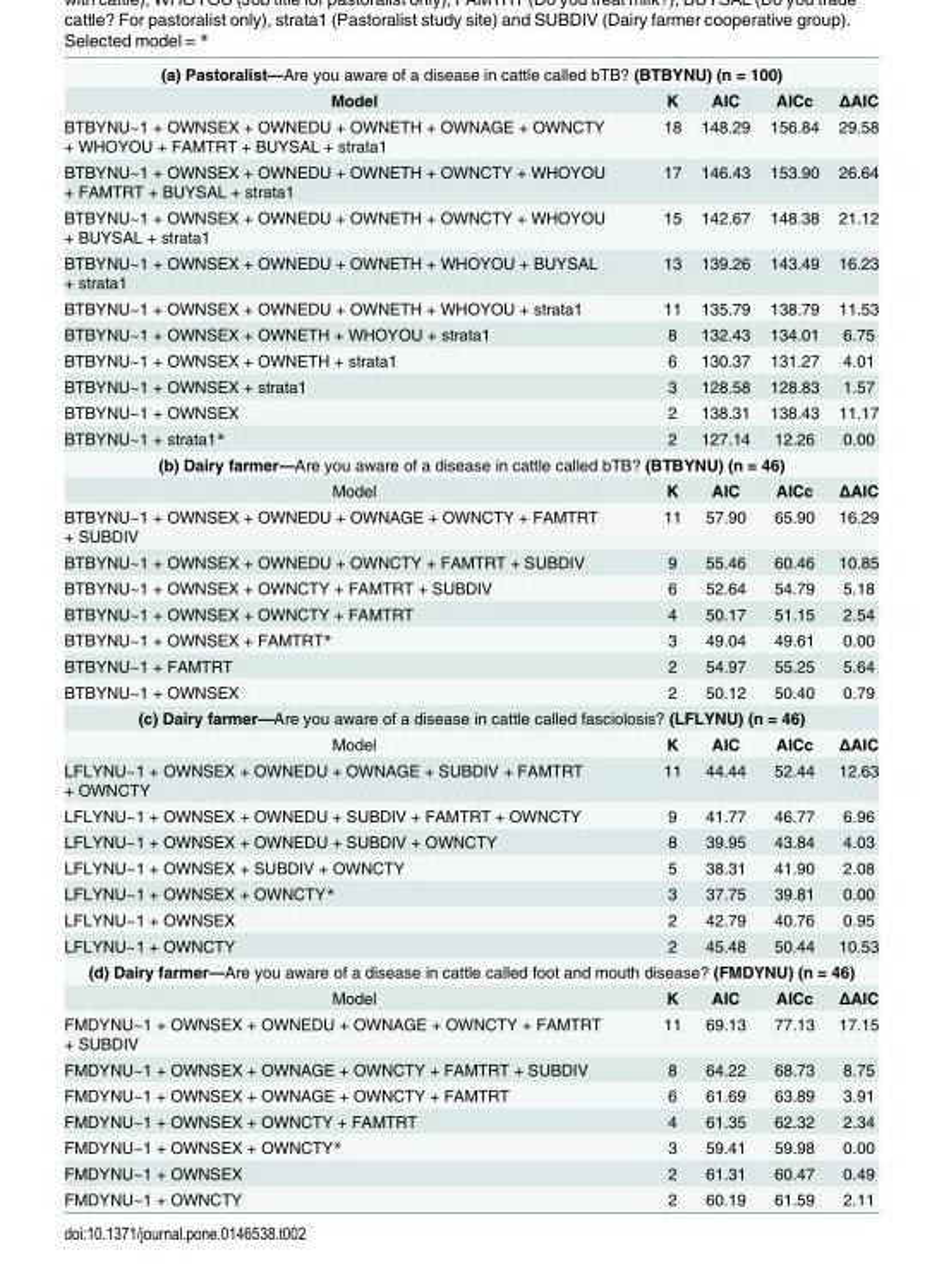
<table><tbody><tr><td colspan="5">(a) Pastoralist—Are you aware of a disease in cattle called bTB? (BTBYNU) (n = 100)</td></tr><tr><td>Model</td><td>K</td><td>AIC</td><td>AICc</td><td>ΔAIC</td></tr><tr><td>BTBYNU~1 + OWNSEX + OWNEDU + OWNETH + OWNAGE + OWNCTY + WHOYOU + FAMTRT + BUYSAL + strata1</td><td>18</td><td>148.29</td><td>156.84</td><td>29.58</td></tr><tr><td>BTBYNU~1 + OWNSEX + OWNEDU + OWNETH + OWNCTY + WHOYOU + FAMTRT + BUYSAL + strata1</td><td>17</td><td>146.43</td><td>153.90</td><td>26.64</td></tr><tr><td>BTBYNU~1 + OWNSEX + OWNEDU + OWNETH + OWNCTY + WHOYOU + BUYSAL + strata1</td><td>15</td><td>142.67</td><td>148.38</td><td>21.12</td></tr><tr><td>BTBYNU~1 + OWNSEX + OWNEDU + OWNETH + WHOYOU + BUYSAL + strata1</td><td>13</td><td>139.26</td><td>143.49</td><td>16.23</td></tr><tr><td>BTBYNU~1 + OWNSEX + OWNEDU + OWNETH + WHOYOU + strata1</td><td>11</td><td>135.79</td><td>138.79</td><td>11.53</td></tr><tr><td>BTBYNU~1 + OWNSEX + OWNETH + WHOYOU + strata1</td><td>8</td><td>132.43</td><td>134.01</td><td>6.75</td></tr><tr><td>BTBYNU~1 + OWNSEX + OWNETH + strata1</td><td>6</td><td>130.37</td><td>131.27</td><td>4.01</td></tr><tr><td>BTBYNU~1 + OWNSEX + strata1</td><td>3</td><td>128.58</td><td>128.83</td><td>1.57</td></tr><tr><td>BTBYNU~1 + OWNSEX</td><td>2</td><td>138.31</td><td>138.43</td><td>11.17</td></tr><tr><td>BTBYNU~1 + strata1*</td><td>2</td><td>127.14</td><td>12.26</td><td>0.00</td></tr><tr><td colspan="5">(b) Dairy farmer—Are you aware of a disease in cattle called bTB? (BTBYNU) (n = 46)</td></tr><tr><td>Model</td><td>K</td><td>AIC</td><td>AICc</td><td>ΔAIC</td></tr><tr><td>BTBYNU~1 + OWNSEX + OWNEDU + OWNAGE + OWNCTY + FAMTRT + SUBDIV</td><td>11</td><td>57.90</td><td>65.90</td><td>16.29</td></tr><tr><td>BTBYNU~1 + OWNSEX + OWNEDU + OWNCTY + FAMTRT + SUBDIV</td><td>9</td><td>55.46</td><td>60.46</td><td>10.85</td></tr><tr><td>BTBYNU~1 + OWNSEX + OWNCTY + FAMTRT + SUBDIV</td><td>6</td><td>52.64</td><td>54.79</td><td>5.18</td></tr><tr><td>BTBYNU~1 + OWNSEX + OWNCTY + FAMTRT</td><td>4</td><td>50.17</td><td>51.15</td><td>2.54</td></tr><tr><td>BTBYNU~1 + OWNSEX + FAMTRT*</td><td>3</td><td>49.04</td><td>49.61</td><td>0.00</td></tr><tr><td>BTBYNU~1 + FAMTRT</td><td>2</td><td>54.97</td><td>55.25</td><td>5.64</td></tr><tr><td>BTBYNU~1 + OWNSEX</td><td>2</td><td>50.12</td><td>50.40</td><td>0.79</td></tr><tr><td colspan="5">(c) Dairy farmer—Are you aware of a disease in cattle called fasciolosis? (LFLYNU) (n = 46)</td></tr><tr><td>Model</td><td>K</td><td>AIC</td><td>AICc</td><td>ΔAIC</td></tr><tr><td>LFLYNU~1 + OWNSEX + OWNEDU + OWNAGE + SUBDIV + FAMTRT + OWNCTY</td><td>11</td><td>44.44</td><td>52.44</td><td>12.63</td></tr><tr><td>LFLYNU~1 + OWNSEX + OWNEDU + SUBDIV + FAMTRT + OWNCTY</td><td>9</td><td>41.77</td><td>46.77</td><td>6.96</td></tr><tr><td>LFLYNU~1 + OWNSEX + OWNEDU + SUBDIV + OWNCTY</td><td>8</td><td>39.95</td><td>43.84</td><td>4.03</td></tr><tr><td>LFLYNU~1 + OWNSEX + SUBDIV + OWNCTY</td><td>5</td><td>38.31</td><td>41.90</td><td>2.08</td></tr><tr><td>LFLYNU~1 + OWNSEX + OWNCTY*</td><td>3</td><td>37.75</td><td>39.81</td><td>0.00</td></tr><tr><td>LFLYNU~1 + OWNSEX</td><td>2</td><td>42.79</td><td>40.76</td><td>0.95</td></tr><tr><td>LFLYNU~1 + OWNCTY</td><td>2</td><td>45.48</td><td>50.44</td><td>10.53</td></tr><tr><td colspan="5">(d) Dairy farmer—Are you aware of a disease in cattle called foot and mouth disease? (FMDYNU) (n = 46)</td></tr><tr><td>Model</td><td>K</td><td>AIC</td><td>AICc</td><td>ΔAIC</td></tr><tr><td>FMDYNU~1 + OWNSEX + OWNEDU + OWNAGE + OWNCTY + FAMTRT + SUBDIV</td><td>11</td><td>69.13</td><td>77.13</td><td>17.15</td></tr><tr><td>FMDYNU~1 + OWNSEX + OWNAGE + OWNCTY + FAMTRT + SUBDIV</td><td>8</td><td>64.22</td><td>68.73</td><td>8.75</td></tr><tr><td>FMDYNU~1 + OWNSEX + OWNAGE + OWNCTY + FAMTRT</td><td>6</td><td>61.69</td><td>63.89</td><td>3.91</td></tr><tr><td>FMDYNU~1 + OWNSEX + OWNCTY + FAMTRT</td><td>4</td><td>61.35</td><td>62.32</td><td>2.34</td></tr><tr><td>FMDYNU~1 + OWNSEX + OWNCTY*</td><td>3</td><td>59.41</td><td>59.98</td><td>0.00</td></tr><tr><td>FMDYNU~1 + OWNSEX</td><td>2</td><td>61.31</td><td>60.47</td><td>0.49</td></tr><tr><td>FMDYNU~1 + OWNCTY</td><td>2</td><td>60.19</td><td>61.59</td><td>2.11</td></tr></tbody></table>